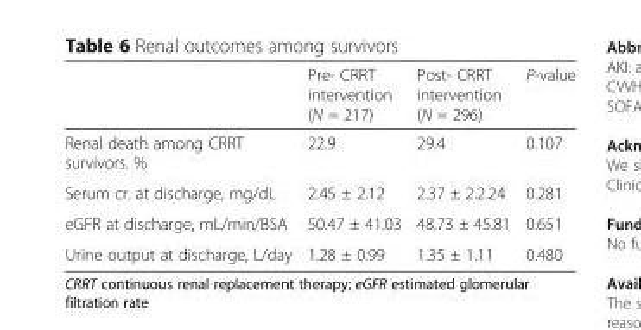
<table><thead><tr><td></td><td>Pre- CRRT intervention (N = 217)</td><td>Post- CRRT intervention (N = 296)</td><td>P-value</td></tr></thead><tbody><tr><td>Renal death among CRRT survivors. %</td><td>22.9</td><td>29.4</td><td>0.107</td></tr><tr><td>Serum cr. at discharge, mg/dL</td><td>2.45 ± 2.12</td><td>2.37 ± 2.2.24</td><td>0.281</td></tr><tr><td>eGFR at discharge, mL/min/BSA</td><td>50.47 ± 41.03</td><td>48.73 ± 45.81</td><td>0.651</td></tr><tr><td>Urine output at discharge, L/day</td><td>1.28 ± 0.99</td><td>1.35 ± 1.11</td><td>0.480</td></tr></tbody></table>